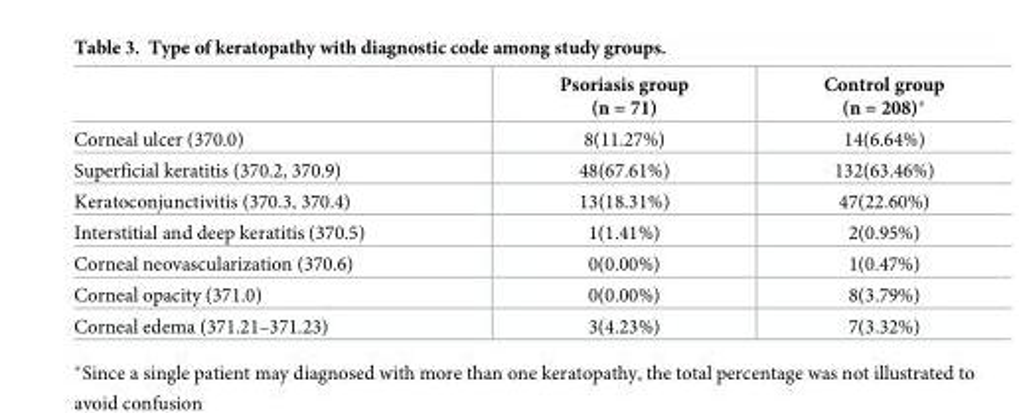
<table><thead><tr><td></td><td>Psoriasis group (n = 71)</td><td>Control group (n = 208)*</td></tr></thead><tbody><tr><td>Corneal ulcer (370.0)</td><td>8(11.27%)</td><td>14(6.64%)</td></tr><tr><td>Superficial keratitis (370.2, 370.9)</td><td>48(67.61%)</td><td>132(63.46%)</td></tr><tr><td>Keratoconjunctivitis (370.3, 370.4)</td><td>13(18.31%)</td><td>47(22.60%)</td></tr><tr><td>Interstitial and deep keratitis (370.5)</td><td>1(1.41%)</td><td>2(0.95%)</td></tr><tr><td>Corneal neovascularization (370.6)</td><td>0(0.00%)</td><td>1(0.47%)</td></tr><tr><td>Corneal opacity (371.0)</td><td>0(0.00%)</td><td>8(3.79%)</td></tr><tr><td>Corneal edema (371.21–371.23)</td><td>3(4.23%)</td><td>7(3.32%)</td></tr></tbody></table>